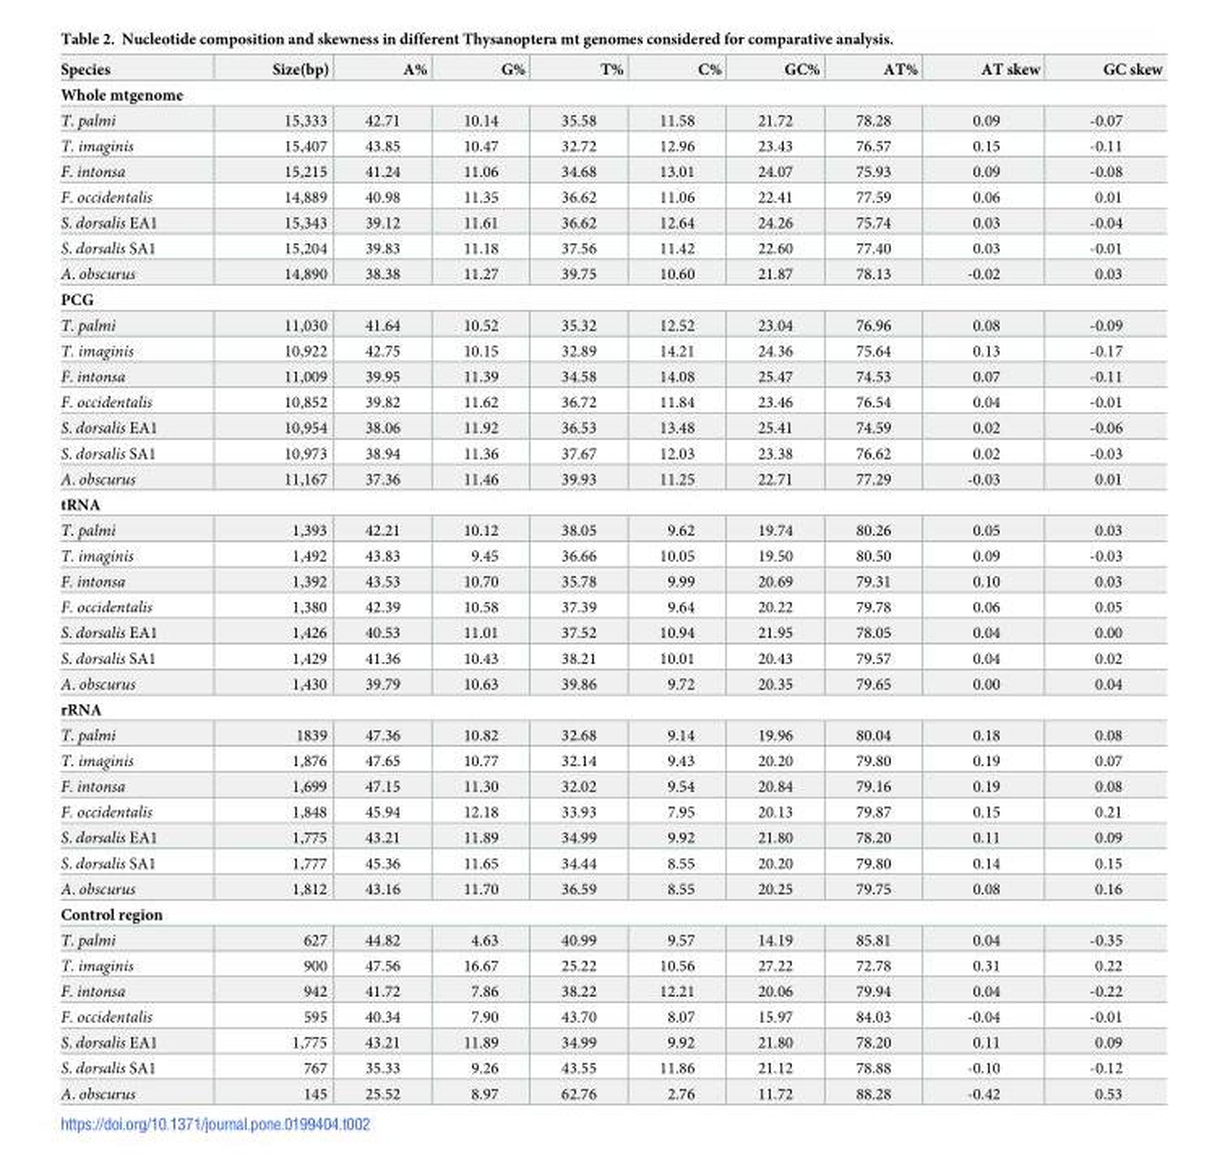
<table><thead><tr><td>Species</td><td>Size(bp)</td><td>A%</td><td>G%</td><td>T%</td><td>C%</td><td>GC%</td><td>AT%</td><td>AT skew</td><td>GC skew</td></tr></thead><tbody><tr><td colspan="10">Whole mtgenome</td></tr><tr><td>T. palmi</td><td>15,333</td><td>42.71</td><td>10.14</td><td>35.58</td><td>11.58</td><td>21.72</td><td>78.28</td><td>0.09</td><td>-0.07</td></tr><tr><td>T. imaginis</td><td>15,407</td><td>43.85</td><td>10.47</td><td>32.72</td><td>12.96</td><td>23.43</td><td>76.57</td><td>0.15</td><td>-0.11</td></tr><tr><td>F. intonsa</td><td>15,215</td><td>41.24</td><td>11.06</td><td>34.68</td><td>13.01</td><td>24.07</td><td>75.93</td><td>0.09</td><td>-0.08</td></tr><tr><td>F. occidentalis</td><td>14,889</td><td>40.98</td><td>11.35</td><td>36.62</td><td>11.06</td><td>22.41</td><td>77.59</td><td>0.06</td><td>0.01</td></tr><tr><td>S. dorsalis EA1</td><td>15,343</td><td>39.12</td><td>11.61</td><td>36.62</td><td>12.64</td><td>24.26</td><td>75.74</td><td>0.03</td><td>-0.04</td></tr><tr><td>S. dorsalis SA1</td><td>15,204</td><td>39.83</td><td>11.18</td><td>37.56</td><td>11.42</td><td>22.60</td><td>77.40</td><td>0.03</td><td>-0.01</td></tr><tr><td>A. obscurus</td><td>14,890</td><td>38.38</td><td>11.27</td><td>39.75</td><td>10.60</td><td>21.87</td><td>78.13</td><td>-0.02</td><td>0.03</td></tr><tr><td colspan="10">PCG</td></tr><tr><td>T. palmi</td><td>11,030</td><td>41.64</td><td>10.52</td><td>35.32</td><td>12.52</td><td>23.04</td><td>76.96</td><td>0.08</td><td>-0.09</td></tr><tr><td>T. imaginis</td><td>10,922</td><td>42.75</td><td>10.15</td><td>32.89</td><td>14.21</td><td>24.36</td><td>75.64</td><td>0.13</td><td>-0.17</td></tr><tr><td>F. intonsa</td><td>11,009</td><td>39.95</td><td>11.39</td><td>34.58</td><td>14.08</td><td>25.47</td><td>74.53</td><td>0.07</td><td>-0.11</td></tr><tr><td>F. occidentalis</td><td>10,852</td><td>39.82</td><td>11.62</td><td>36.72</td><td>11.84</td><td>23.46</td><td>76.54</td><td>0.04</td><td>-0.01</td></tr><tr><td>S. dorsalis EA1</td><td>10,954</td><td>38.06</td><td>11.92</td><td>36.53</td><td>13.48</td><td>25.41</td><td>74.59</td><td>0.02</td><td>-0.06</td></tr><tr><td>S. dorsalis SA1</td><td>10,973</td><td>38.94</td><td>11.36</td><td>37.67</td><td>12.03</td><td>23.38</td><td>76.62</td><td>0.02</td><td>-0.03</td></tr><tr><td>A. obscurus</td><td>11,167</td><td>37.36</td><td>11.46</td><td>39.93</td><td>11.25</td><td>22.71</td><td>77.29</td><td>-0.03</td><td>0.01</td></tr><tr><td colspan="10">tRNA</td></tr><tr><td>T. palmi</td><td>1,393</td><td>42.21</td><td>10.12</td><td>38.05</td><td>9.62</td><td>19.74</td><td>80.26</td><td>0.05</td><td>0.03</td></tr><tr><td>T. imaginis</td><td>1,492</td><td>43.83</td><td>9.45</td><td>36.66</td><td>10.05</td><td>19.50</td><td>80.50</td><td>0.09</td><td>-0.03</td></tr><tr><td>F. intonsa</td><td>1,392</td><td>43.53</td><td>10.70</td><td>35.78</td><td>9.99</td><td>20.69</td><td>79.31</td><td>0.10</td><td>0.03</td></tr><tr><td>F. occidentalis</td><td>1,380</td><td>42.39</td><td>10.58</td><td>37.39</td><td>9.64</td><td>20.22</td><td>79.78</td><td>0.06</td><td>0.05</td></tr><tr><td>S. dorsalis EA1</td><td>1,426</td><td>40.53</td><td>11.01</td><td>37.52</td><td>10.94</td><td>21.95</td><td>78.05</td><td>0.04</td><td>0.00</td></tr><tr><td>S. dorsalis SA1</td><td>1,429</td><td>41.36</td><td>10.43</td><td>38.21</td><td>10.01</td><td>20.43</td><td>79.57</td><td>0.04</td><td>0.02</td></tr><tr><td>A. obscurus</td><td>1,430</td><td>39.79</td><td>10.63</td><td>39.86</td><td>9.72</td><td>20.35</td><td>79.65</td><td>0.00</td><td>0.04</td></tr><tr><td colspan="10">rRNA</td></tr><tr><td>T. palmi</td><td>1839</td><td>47.36</td><td>10.82</td><td>32.68</td><td>9.14</td><td>19.96</td><td>80.04</td><td>0.18</td><td>0.08</td></tr><tr><td>T. imaginis</td><td>1,876</td><td>47.65</td><td>10.77</td><td>32.14</td><td>9.43</td><td>20.20</td><td>79.80</td><td>0.19</td><td>0.07</td></tr><tr><td>F. intonsa</td><td>1,699</td><td>47.15</td><td>11.30</td><td>32.02</td><td>9.54</td><td>20.84</td><td>79.16</td><td>0.19</td><td>0.08</td></tr><tr><td>F. occidentalis</td><td>1,848</td><td>45.94</td><td>12.18</td><td>33.93</td><td>7.95</td><td>20.13</td><td>79.87</td><td>0.15</td><td>0.21</td></tr><tr><td>S. dorsalis EA1</td><td>1,775</td><td>43.21</td><td>11.89</td><td>34.99</td><td>9.92</td><td>21.80</td><td>78.20</td><td>0.11</td><td>0.09</td></tr><tr><td>S. dorsalis SA1</td><td>1,777</td><td>45.36</td><td>11.65</td><td>34.44</td><td>8.55</td><td>20.20</td><td>79.80</td><td>0.14</td><td>0.15</td></tr><tr><td>A. obscurus</td><td>1,812</td><td>43.16</td><td>11.70</td><td>36.59</td><td>8.55</td><td>20.25</td><td>79.75</td><td>0.08</td><td>0.16</td></tr><tr><td colspan="10">Control region</td></tr><tr><td>T. palmi</td><td>627</td><td>44.82</td><td>4.63</td><td>40.99</td><td>9.57</td><td>14.19</td><td>85.81</td><td>0.04</td><td>-0.35</td></tr><tr><td>T. imaginis</td><td>900</td><td>47.56</td><td>16.67</td><td>25.22</td><td>10.56</td><td>27.22</td><td>72.78</td><td>0.31</td><td>0.22</td></tr><tr><td>F. intonsa</td><td>942</td><td>41.72</td><td>7.86</td><td>38.22</td><td>12.21</td><td>20.06</td><td>79.94</td><td>0.04</td><td>-0.22</td></tr><tr><td>F. occidentalis</td><td>595</td><td>40.34</td><td>7.90</td><td>43.70</td><td>8.07</td><td>15.97</td><td>84.03</td><td>-0.04</td><td>-0.01</td></tr><tr><td>S. dorsalis EA1</td><td>1,775</td><td>43.21</td><td>11.89</td><td>34.99</td><td>9.92</td><td>21.80</td><td>78.20</td><td>0.11</td><td>0.09</td></tr><tr><td>S. dorsalis SA1</td><td>767</td><td>35.33</td><td>9.26</td><td>43.55</td><td>11.86</td><td>21.12</td><td>78.88</td><td>-0.10</td><td>-0.12</td></tr><tr><td>A. obscurus</td><td>145</td><td>25.52</td><td>8.97</td><td>62.76</td><td>2.76</td><td>11.72</td><td>88.28</td><td>-0.42</td><td>0.53</td></tr></tbody></table>